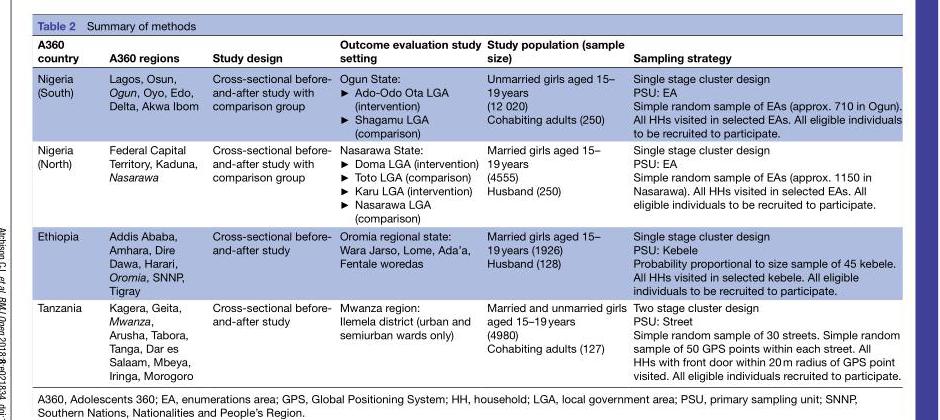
<table><thead><tr><td>A360 country</td><td>A360 regions</td><td>Study design</td><td>Outcome evaluation study setting</td><td>Study population (sample size)</td><td>Sampling strategy</td></tr></thead><tbody><tr><td>Nigeria (South)</td><td>Lagos, Osun, Ogun, Oyo, Edo, Delta, Akwa Ibom</td><td>Cross-sectional before- and-after study with comparison group</td><td>Ogun State: ► Ado-Odo Ota LGA (intervention) ► Shagamu LGA (comparison)</td><td>Unmarried girls aged 15– 19 years (12 020) Cohabiting adults (250)</td><td>Single stage cluster design PSU: EA Simple random sample of EAs (approx. 710 in Ogun). All HHs visited in selected EAs. All eligible individuals to be recruited to participate.</td></tr><tr><td>Nigeria (North)</td><td>Federal Capital Territory, Kaduna, Nasarawa</td><td>Cross-sectional before- and-after study with comparison group</td><td>Nasarawa State: ► Doma LGA (intervention) ► Toto LGA (comparison) ► Karu LGA (intervention) ► Nasarawa LGA (comparison)</td><td>Married girls aged 15– 19 years (4555) Husband (250)</td><td>Single stage cluster design PSU: EA Simple random sample of EAs (approx. 1150 in Nasarawa). All HHs visited in selected EAs. All eligible individuals to be recruited to participate.</td></tr><tr><td>Ethiopia</td><td>Addis Ababa, Amhara, Dire Dawa, Harari, Oromia, SNNP, Tigray</td><td>Cross-sectional before- and-after study</td><td>Oromia regional state: Wara Jarso, Lome, Ada’a, Fentale woredas</td><td>Married girls aged 15– 19 years (1926) Husband (128)</td><td>Single stage cluster design PSU: Kebele Probability proportional to size sample of 45 kebele. All HHs visited in selected kebele. All eligible individuals to be recruited to participate.</td></tr><tr><td>Tanzania</td><td>Kagera, Geita, Mwanza, Arusha, Tabora, Tanga, Dar es Salaam, Mbeya, Iringa, Morogoro</td><td>Cross-sectional before- and-after study</td><td>Mwanza region: Ilemela district (urban and semiurban wards only)</td><td>Married and unmarried girls aged 15–19 years (4980) Cohabiting adults (127)</td><td>Two stage cluster design PSU: Street Simple random sample of 30 streets. Simple random sample of 50 GPS points within each street. All HHs with front door within 20 m radius of GPS point visited. All eligible individuals recruited to participate.</td></tr></tbody></table>